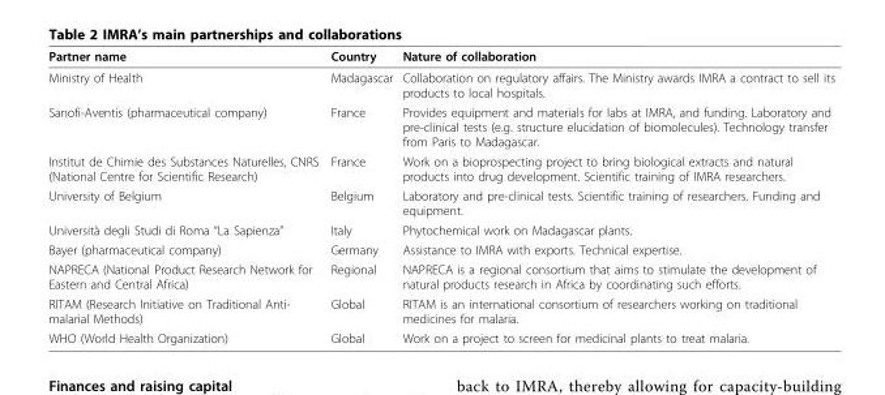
<table><thead><tr><td>Partner name</td><td>Country</td><td>Nature of collaboration</td></tr></thead><tbody><tr><td>Ministry of Health</td><td>Madagascar</td><td>Collaboration on regulatory affairs. The Ministry awards IMRA a contract to sell its products to local hospitals.</td></tr><tr><td>Sanofi-Aventis (pharmaceutical company)</td><td>France</td><td>Provides equipment and materials for labs at IMRA, and funding. Laboratory and pre-clinical tests (e.g. structure elucidation of biomolecules). Technology transfer from Paris to Madagascar.</td></tr><tr><td>Institut de Chimie des Substances Naturelles, CNRS (National Centre for Scientific Research)</td><td>France</td><td>Work on a bioprospecting project to bring biological extracts and natural products into drug development. Scientific training of IMRA researchers.</td></tr><tr><td>University of Belgium</td><td>Belgium</td><td>Laboratory and pre-clinical tests. Scientific training of researchers. Funding and equipment.</td></tr><tr><td>Università degli Studi di Roma “La Sapienza”</td><td>Italy</td><td>Phytochemical work on Madagascar plants.</td></tr><tr><td>Bayer (pharmaceutical company)</td><td>Germany</td><td>Assistance to IMRA with exports. Technical expertise.</td></tr><tr><td>NAPRECA (National Product Research Network for Eastern and Central Africa)</td><td>Regional</td><td>NAPRECA is a regional consortium that aims to stimulate the development of natural products research in Africa by coordinating such efforts.</td></tr><tr><td>RITAM (Research Initiative on Traditional Anti- malarial Methods)</td><td>Global</td><td>RITAM is an international consortium of researchers working on traditional medicines for malaria.</td></tr><tr><td>WHO (World Health Organization)</td><td>Global</td><td>Work on a project to screen for medicinal plants to treat malaria.</td></tr></tbody></table>